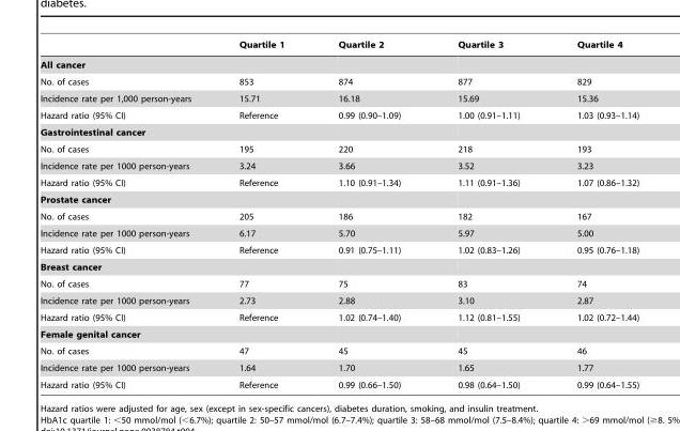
<table><thead><tr><td></td><td>Quartile 1</td><td>Quartile 2</td><td>Quartile 3</td><td>Quartile 4</td></tr></thead><tbody><tr><td colspan="5">All cancer</td></tr><tr><td>No. of cases</td><td>853</td><td>874</td><td>877</td><td>829</td></tr><tr><td>Incidence rate per 1,000 person-years</td><td>15.71</td><td>16.18</td><td>15.69</td><td>15.36</td></tr><tr><td>Hazard ratio (95% CI)</td><td>Reference</td><td>0.99 (0.90–1.09)</td><td>1.00 (0.91–1.11)</td><td>1.03 (0.93–1.14)</td></tr><tr><td colspan="5">Gastrointestinal cancer</td></tr><tr><td>No. of cases</td><td>195</td><td>220</td><td>218</td><td>193</td></tr><tr><td>Incidence rate per 1000 person-years</td><td>3.24</td><td>3.66</td><td>3.52</td><td>3.23</td></tr><tr><td>Hazard ratio (95% CI)</td><td>Reference</td><td>1.10 (0.91–1.34)</td><td>1.11 (0.91–1.36)</td><td>1.07 (0.86–1.32)</td></tr><tr><td colspan="5">Prostate cancer</td></tr><tr><td>No. of cases</td><td>205</td><td>186</td><td>182</td><td>167</td></tr><tr><td>Incidence rate per 1000 person-years</td><td>6.17</td><td>5.70</td><td>5.97</td><td>5.00</td></tr><tr><td>Hazard ratio (95% CI)</td><td>Reference</td><td>0.91 (0.75–1.11)</td><td>1.02 (0.83–1.26)</td><td>0.95 (0.76–1.18)</td></tr><tr><td colspan="5">Breast cancer</td></tr><tr><td>No. of cases</td><td>77</td><td>75</td><td>83</td><td>74</td></tr><tr><td>Incidence rate per 1000 person-years</td><td>2.73</td><td>2.88</td><td>3.10</td><td>2.87</td></tr><tr><td>Hazard ratio (95% CI)</td><td>Reference</td><td>1.02 (0.74–1.40)</td><td>1.12 (0.81–1.55)</td><td>1.02 (0.72–1.44)</td></tr><tr><td colspan="5">Female genital cancer</td></tr><tr><td>No. of cases</td><td>47</td><td>45</td><td>45</td><td>46</td></tr><tr><td>Incidence rate per 1000 person-years</td><td>1.64</td><td>1.70</td><td>1.65</td><td>1.77</td></tr><tr><td>Hazard ratio (95% CI)</td><td>Reference</td><td>0.99 (0.66–1.50)</td><td>0.98 (0.64–1.50)</td><td>0.99 (0.64–1.55)</td></tr></tbody></table>